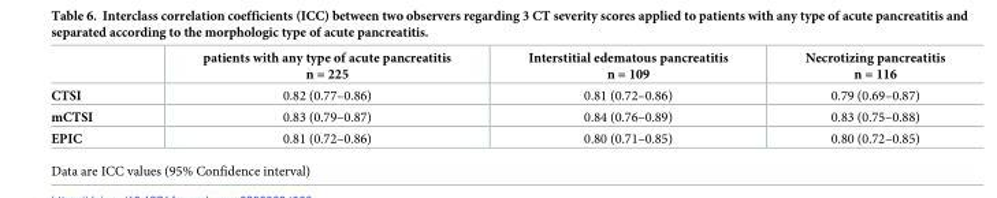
<table><thead><tr><td></td><td>patients with any type of acute pancreatitis n = 225</td><td>Interstitial edematous pancreatitis n = 109</td><td>Necrotizing pancreatitis n = 116</td></tr></thead><tbody><tr><td>CTSI</td><td>0.82 (0.77–0.86)</td><td>0.81 (0.72–0.86)</td><td>0.79 (0.69–0.87)</td></tr><tr><td>mCTSI</td><td>0.83 (0.79–0.87)</td><td>0.84 (0.76–0.89)</td><td>0.83 (0.75–0.88)</td></tr><tr><td>EPIC</td><td>0.81 (0.72–0.86)</td><td>0.80 (0.71–0.85)</td><td>0.80 (0.72–0.85)</td></tr></tbody></table>